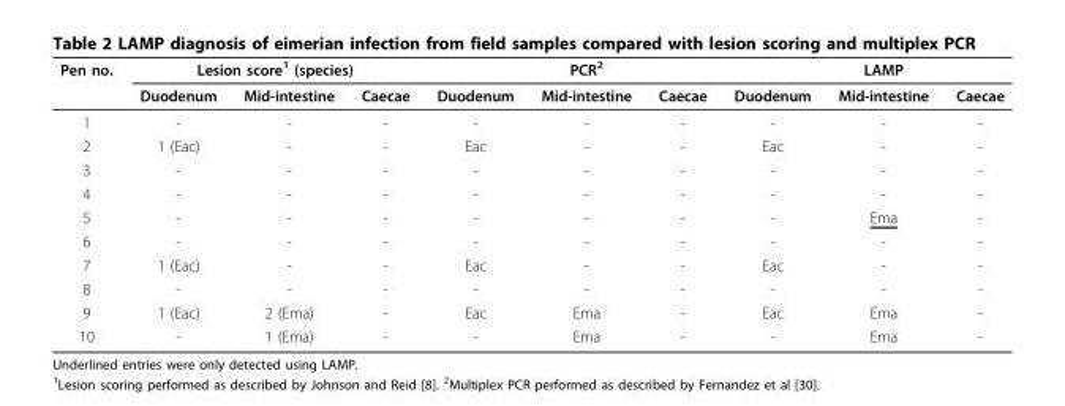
<table><thead><tr><td rowspan="2">Pen no.</td><td colspan="3">Lesion score<sup>1</sup> (species)</td><td rowspan="2">Duodenum</td><td rowspan="2">PCR<sup>2</sup> Mid-intestine</td><td rowspan="2">Caecae</td><td rowspan="2">Duodenum</td><td rowspan="2">LAMP Mid-intestine</td><td rowspan="2">Caecae</td></tr><tr><td>Duodenum</td><td>Mid-intestine</td><td>Caecae</td></tr></thead><tbody><tr><td>1</td><td>-</td><td>-</td><td>-</td><td>-</td><td>-</td><td>-</td><td>-</td><td>-</td><td>-</td></tr><tr><td>2</td><td>1 (Eac)</td><td>-</td><td>-</td><td>Eac</td><td>-</td><td>-</td><td>Eac</td><td>-</td><td>-</td></tr><tr><td>3</td><td>-</td><td>-</td><td>-</td><td>-</td><td>-</td><td>-</td><td>-</td><td>-</td><td>-</td></tr><tr><td>4</td><td>-</td><td>-</td><td>-</td><td>-</td><td>-</td><td>-</td><td>-</td><td>-</td><td>-</td></tr><tr><td>5</td><td>-</td><td>-</td><td>-</td><td>-</td><td>-</td><td>-</td><td>-</td><td>Ema</td><td>-</td></tr><tr><td>6</td><td>-</td><td>-</td><td>-</td><td>-</td><td>-</td><td>-</td><td>-</td><td>-</td><td>-</td></tr><tr><td>7</td><td>1 (Eac)</td><td>-</td><td>-</td><td>Eac</td><td>-</td><td>-</td><td>Eac</td><td>-</td><td>-</td></tr><tr><td>8</td><td>-</td><td>-</td><td>-</td><td>-</td><td>-</td><td>-</td><td>-</td><td>-</td><td>-</td></tr><tr><td>9</td><td>1 (Eac)</td><td>2 (Ema)</td><td>-</td><td>Eac</td><td>Ema</td><td>-</td><td>Eac</td><td>Ema</td><td>-</td></tr><tr><td>10</td><td>-</td><td>1 (Ema)</td><td>-</td><td>-</td><td>Ema</td><td>-</td><td>-</td><td>Ema</td><td>-</td></tr></tbody></table>